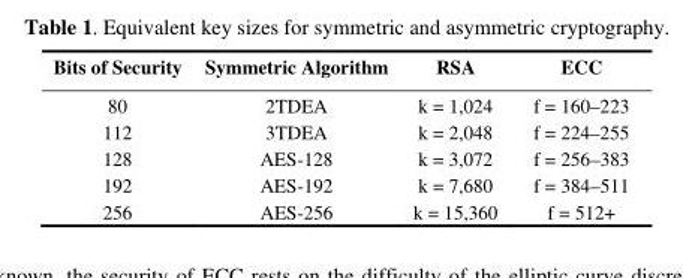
<table><thead><tr><td>Bits of Security</td><td>Symmetric Algorithm</td><td>RSA</td><td>ECC</td></tr></thead><tbody><tr><td>80</td><td>2TDEA</td><td>k = 1,024</td><td>f = 160–223</td></tr><tr><td>112</td><td>3TDEA</td><td>k = 2,048</td><td>f = 224–255</td></tr><tr><td>128</td><td>AES-128</td><td>k = 3,072</td><td>f = 256–383</td></tr><tr><td>192</td><td>AES-192</td><td>k = 7,680</td><td>f = 384–511</td></tr><tr><td>256</td><td>AES-256</td><td>k = 15,360</td><td>f = 512+</td></tr></tbody></table>